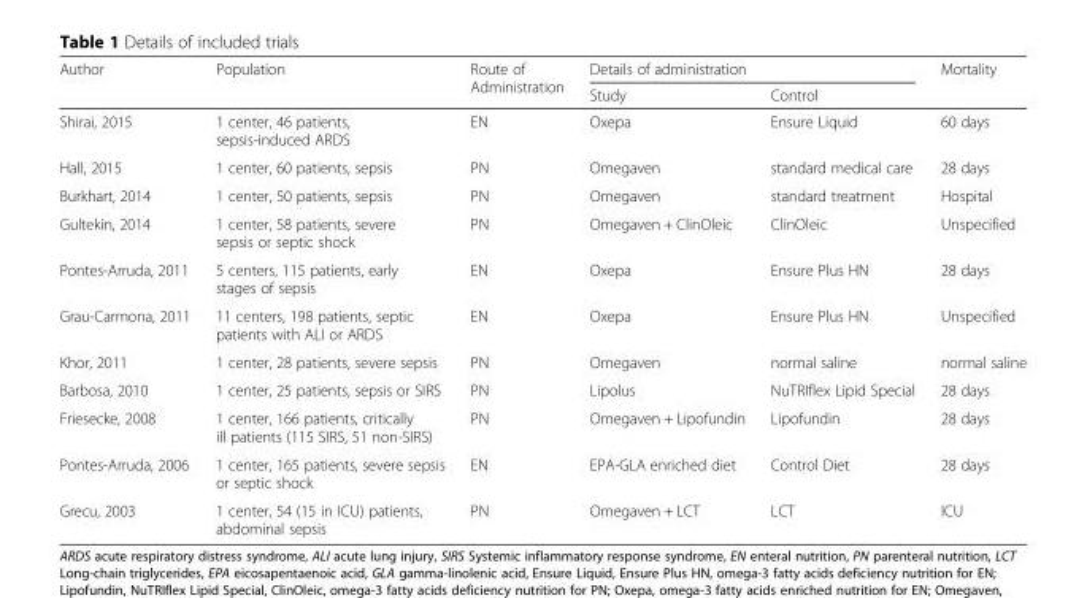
<table><thead><tr><td rowspan="2">Author</td><td rowspan="2">Population</td><td rowspan="2">Route of Administration</td><td colspan="2">Details of administration</td><td rowspan="2">Mortality</td></tr><tr><td>Study</td><td>Control</td></tr></thead><tbody><tr><td>Shirai, 2015</td><td>1 center, 46 patients, sepsis-induced ARDS</td><td>EN</td><td>Oxepa</td><td>Ensure Liquid</td><td>60 days</td></tr><tr><td>Hall, 2015</td><td>1 center, 60 patients, sepsis</td><td>PN</td><td>Omegaven</td><td>standard medical care</td><td>28 days</td></tr><tr><td>Burkhart, 2014</td><td>1 center, 50 patients, sepsis</td><td>PN</td><td>Omegaven</td><td>standard treatment</td><td>Hospital</td></tr><tr><td>Gultekin, 2014</td><td>1 center, 58 patients, severe sepsis or septic shock</td><td>PN</td><td>Omegaven + ClinOleic</td><td>ClinOleic</td><td>Unspecified</td></tr><tr><td>Pontes-Arruda, 2011</td><td>5 centers, 115 patients, early stages of sepsis</td><td>EN</td><td>Oxepa</td><td>Ensure Plus HN</td><td>28 days</td></tr><tr><td>Grau-Carmona, 2011</td><td>11 centers, 198 patients, septic patients with ALI or ARDS</td><td>EN</td><td>Oxepa</td><td>Ensure Plus HN</td><td>Unspecified</td></tr><tr><td>Khor, 2011</td><td>1 center, 28 patients, severe sepsis</td><td>PN</td><td>Omegaven</td><td>normal saline</td><td>normal saline</td></tr><tr><td>Barbosa, 2010</td><td>1 center, 25 patients, sepsis or SIRS</td><td>PN</td><td>Lipolus</td><td>NuTRIflex Lipid Special</td><td>28 days</td></tr><tr><td>Friesecke, 2008</td><td>1 center, 166 patients, critically ill patients (115 SIRS, 51 non-SIRS)</td><td>PN</td><td>Omegaven + Lipofundin</td><td>Lipofundin</td><td>28 days</td></tr><tr><td>Pontes-Arruda, 2006</td><td>1 center, 165 patients, severe sepsis or septic shock</td><td>EN</td><td>EPA-GLA enriched diet</td><td>Control Diet</td><td>28 days</td></tr><tr><td>Grecu, 2003</td><td>1 center, 54 (15 in ICU) patients, abdominal sepsis</td><td>PN</td><td>Omegaven + LCT</td><td>LCT</td><td>ICU</td></tr></tbody></table>